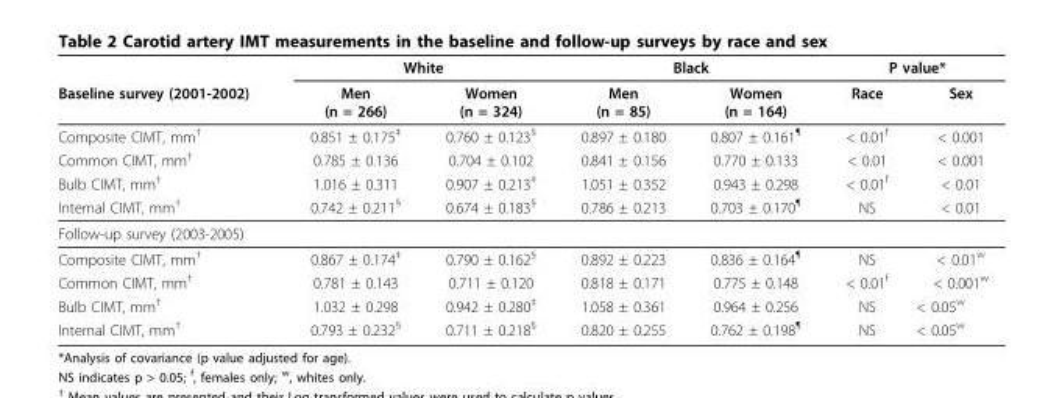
<table><thead><tr><td rowspan="2">Baseline survey (2001-2002)</td><td colspan="2">White</td><td colspan="2">Black</td><td colspan="2">P value*</td></tr><tr><td>Men (n = 266)</td><td>Women (n = 324)</td><td>Men (n = 85)</td><td>Women (n = 164)</td><td>Race</td><td>Sex</td></tr></thead><tbody><tr><td>Composite CIMT, mm<sup>†</sup></td><td>0.851 ± 0.175<sup>‡</sup></td><td>0.760 ± 0.123<sup>§</sup></td><td>0.897 ± 0.180</td><td>0.807 ± 0.161<sup>¶</sup></td><td>&lt; 0.01<sup>f</sup></td><td>&lt; 0.001</td></tr><tr><td>Common CIMT, mm<sup>†</sup></td><td>0.785 ± 0.136</td><td>0.704 ± 0.102</td><td>0.841 ± 0.156</td><td>0.770 ± 0.133</td><td>&lt; 0.01</td><td>&lt; 0.001</td></tr><tr><td>Bulb CIMT, mm<sup>†</sup></td><td>1.016 ± 0.311</td><td>0.907 ± 0.213<sup>‡</sup></td><td>1.051 ± 0.352</td><td>0.943 ± 0.298</td><td>&lt; 0.01<sup>f</sup></td><td>&lt; 0.01</td></tr><tr><td>Internal CIMT, mm<sup>†</sup></td><td>0.742 ± 0.211<sup>§</sup></td><td>0.674 ± 0.183<sup>§</sup></td><td>0.786 ± 0.213</td><td>0.703 ± 0.170<sup>¶</sup></td><td>NS</td><td>&lt; 0.01</td></tr><tr><td colspan="7">Follow-up survey (2003-2005)</td></tr><tr><td>Composite CIMT, mm<sup>†</sup></td><td>0.867 ± 0.174<sup>‡</sup></td><td>0.790 ± 0.162<sup>§</sup></td><td>0.892 ± 0.223</td><td>0.836 ± 0.164<sup>¶</sup></td><td>NS</td><td>&lt; 0.01<sup>w</sup></td></tr><tr><td>Common CIMT, mm<sup>†</sup></td><td>0.781 ± 0.143</td><td>0.711 ± 0.120</td><td>0.818 ± 0.171</td><td>0.775 ± 0.148</td><td>&lt; 0.01<sup>f</sup></td><td>&lt; 0.001<sup>w</sup></td></tr><tr><td>Bulb CIMT, mm<sup>†</sup></td><td>1.032 ± 0.298</td><td>0.942 ± 0.280<sup>‡</sup></td><td>1.058 ± 0.361</td><td>0.964 ± 0.256</td><td>NS</td><td>&lt; 0.05<sup>w</sup></td></tr><tr><td>Internal CIMT, mm<sup>†</sup></td><td>0.793 ± 0.232<sup>§</sup></td><td>0.711 ± 0.218<sup>§</sup></td><td>0.820 ± 0.255</td><td>0.762 ± 0.198<sup>¶</sup></td><td>NS</td><td>&lt; 0.05<sup>w</sup></td></tr></tbody></table>